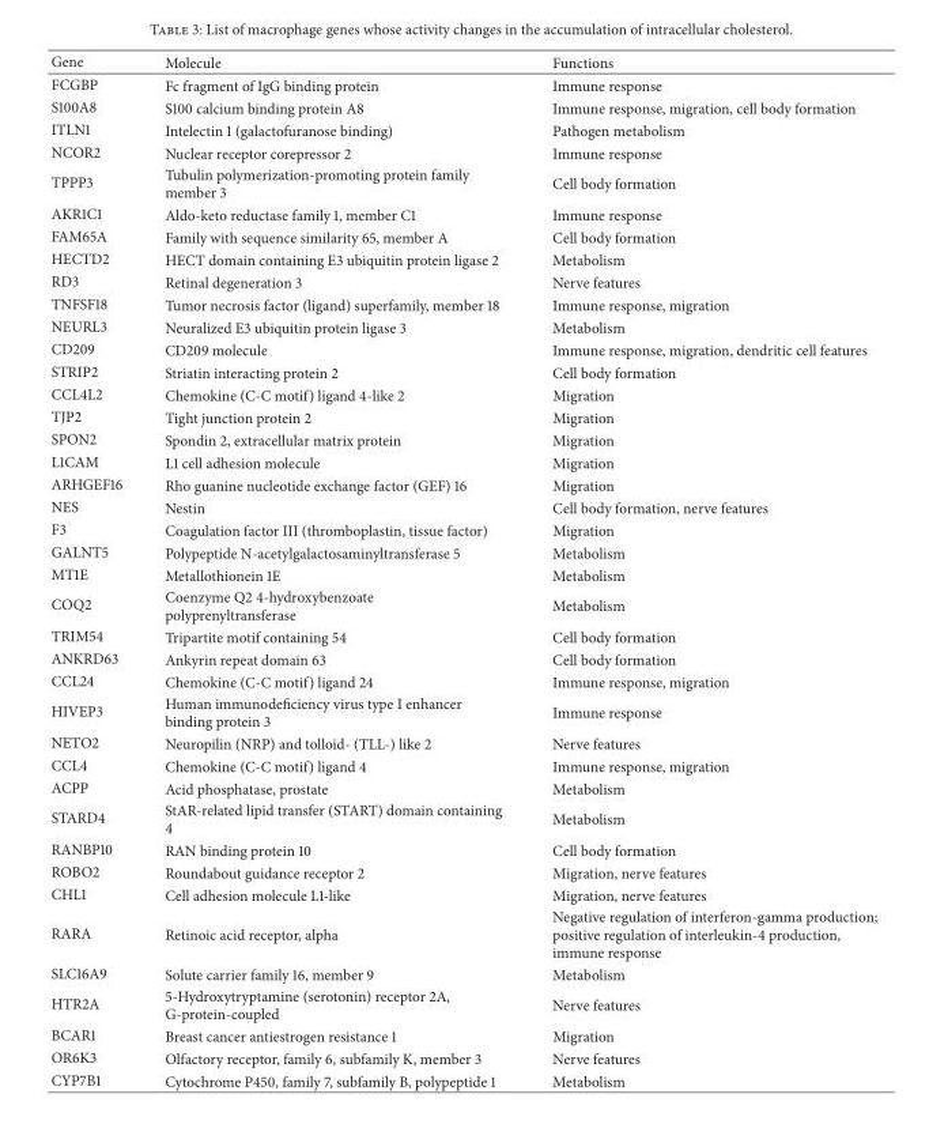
<table><thead><tr><td>Gene</td><td>Molecule</td><td>Functions</td></tr></thead><tbody><tr><td>FCGBP</td><td>Fc fragment of IgG binding protein</td><td>Immune response</td></tr><tr><td>S100A8</td><td>S100 calcium binding protein A8</td><td>Immune response, migration, cell body formation</td></tr><tr><td>ITLN1</td><td>Intelectin 1 (galactofuranose binding)</td><td>Pathogen metabolism</td></tr><tr><td>NCOR2</td><td>Nuclear receptor corepressor 2</td><td>Immune response</td></tr><tr><td>TPPP3</td><td>Tubulin polymerization-promoting protein family member 3</td><td>Cell body formation</td></tr><tr><td>AKR1C1</td><td>Aldo-keto reductase family 1, member C1</td><td>Immune response</td></tr><tr><td>FAM65A</td><td>Family with sequence similarity 65, member A</td><td>Cell body formation</td></tr><tr><td>HECTD2</td><td>HECT domain containing E3 ubiquitin protein ligase 2</td><td>Metabolism</td></tr><tr><td>RD3</td><td>Retinal degeneration 3</td><td>Nerve features</td></tr><tr><td>TNFSF18</td><td>Tumor necrosis factor (ligand) superfamily, member 18</td><td>Immune response, migration</td></tr><tr><td>NEURL3</td><td>Neuralized E3 ubiquitin protein ligase 3</td><td>Metabolism</td></tr><tr><td>CD209</td><td>CD209 molecule</td><td>Immune response, migration, dendritic cell features</td></tr><tr><td>STRIP2</td><td>Striatin interacting protein 2</td><td>Cell body formation</td></tr><tr><td>CCL4L2</td><td>Chemokine (C-C motif) ligand 4-like 2</td><td>Migration</td></tr><tr><td>TJP2</td><td>Tight junction protein 2</td><td>Migration</td></tr><tr><td>SPON2</td><td>Spondin 2, extracellular matrix protein</td><td>Migration</td></tr><tr><td>L1CAM</td><td>L1 cell adhesion molecule</td><td>Migration</td></tr><tr><td>ARHGEF16</td><td>Rho guanine nucleotide exchange factor (GEF) 16</td><td>Migration</td></tr><tr><td>NES</td><td>Nestin</td><td>Cell body formation, nerve features</td></tr><tr><td>F3</td><td>Coagulation factor III (thromboplastin, tissue factor)</td><td>Migration</td></tr><tr><td>GALNT5</td><td>Polypeptide N-acetylgalactosaminyltransferase 5</td><td>Metabolism</td></tr><tr><td>MT1E</td><td>Metallothionein 1E</td><td>Metabolism</td></tr><tr><td>COQ2</td><td>Coenzyme Q2 4-hydroxybenzoate polyprenyltransferase</td><td>Metabolism</td></tr><tr><td>TRIM54</td><td>Tripartite motif containing 54</td><td>Cell body formation</td></tr><tr><td>ANKRD63</td><td>Ankyrin repeat domain 63</td><td>Cell body formation</td></tr><tr><td>CCL24</td><td>Chemokine (C-C motif) ligand 24</td><td>Immune response, migration</td></tr><tr><td>HIVEP3</td><td>Human immunodeficiency virus type I enhancer binding protein 3</td><td>Immune response</td></tr><tr><td>NETO2</td><td>Neuropilin (NRP) and tolloid- (TLL-) like 2</td><td>Nerve features</td></tr><tr><td>CCL4</td><td>Chemokine (C-C motif) ligand 4</td><td>Immune response, migration</td></tr><tr><td>ACPP</td><td>Acid phosphatase, prostate</td><td>Metabolism</td></tr><tr><td>STARD4</td><td>StAR-related lipid transfer (START) domain containing 4</td><td>Metabolism</td></tr><tr><td>RANBP10</td><td>RAN binding protein 10</td><td>Cell body formation</td></tr><tr><td>ROBO2</td><td>Roundabout guidance receptor 2</td><td>Migration, nerve features</td></tr><tr><td>CHL1</td><td>Cell adhesion molecule L1-like</td><td>Migration, nerve features</td></tr><tr><td>RARA</td><td>Retinoic acid receptor, alpha</td><td>Negative regulation of interferon-gamma production; positive regulation of interleukin-4 production, immune response</td></tr><tr><td>SLC16A9</td><td>Solute carrier family 16, member 9</td><td>Metabolism</td></tr><tr><td>HTR2A</td><td>5-Hydroxytryptamine (serotonin) receptor 2A, G-protein-coupled</td><td>Nerve features</td></tr><tr><td>BCAR1</td><td>Breast cancer antiestrogen resistance 1</td><td>Migration</td></tr><tr><td>OR6K3</td><td>Olfactory receptor, family 6, subfamily K, member 3</td><td>Nerve features</td></tr><tr><td>CYP7B1</td><td>Cytochrome P450, family 7, subfamily B, polypeptide 1</td><td>Metabolism</td></tr></tbody></table>